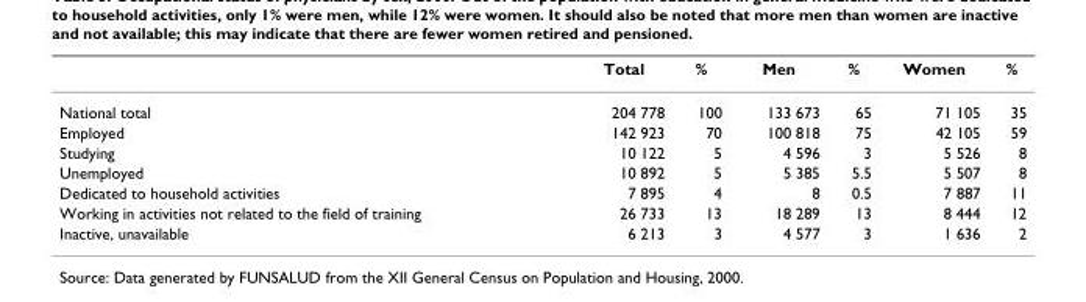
<table><thead><tr><td></td><td>Total</td><td>%</td><td>Men</td><td>%</td><td>Women</td><td>%</td></tr></thead><tbody><tr><td>National total</td><td>204 778</td><td>100</td><td>133 673</td><td>65</td><td>71 105</td><td>35</td></tr><tr><td>Employed</td><td>142 923</td><td>70</td><td>100 818</td><td>75</td><td>42 105</td><td>59</td></tr><tr><td>Studying</td><td>10 122</td><td>5</td><td>4 596</td><td>3</td><td>5 526</td><td>8</td></tr><tr><td>Unemployed</td><td>10 892</td><td>5</td><td>5 385</td><td>5.5</td><td>5 507</td><td>8</td></tr><tr><td>Dedicated to household activities</td><td>7 895</td><td>4</td><td>8</td><td>0.5</td><td>7 887</td><td>11</td></tr><tr><td>Working in activities not related to the field of training</td><td>26 733</td><td>13</td><td>18 289</td><td>13</td><td>8 444</td><td>12</td></tr><tr><td>Inactive, unavailable</td><td>6 213</td><td>3</td><td>4 577</td><td>3</td><td>1 636</td><td>2</td></tr></tbody></table>